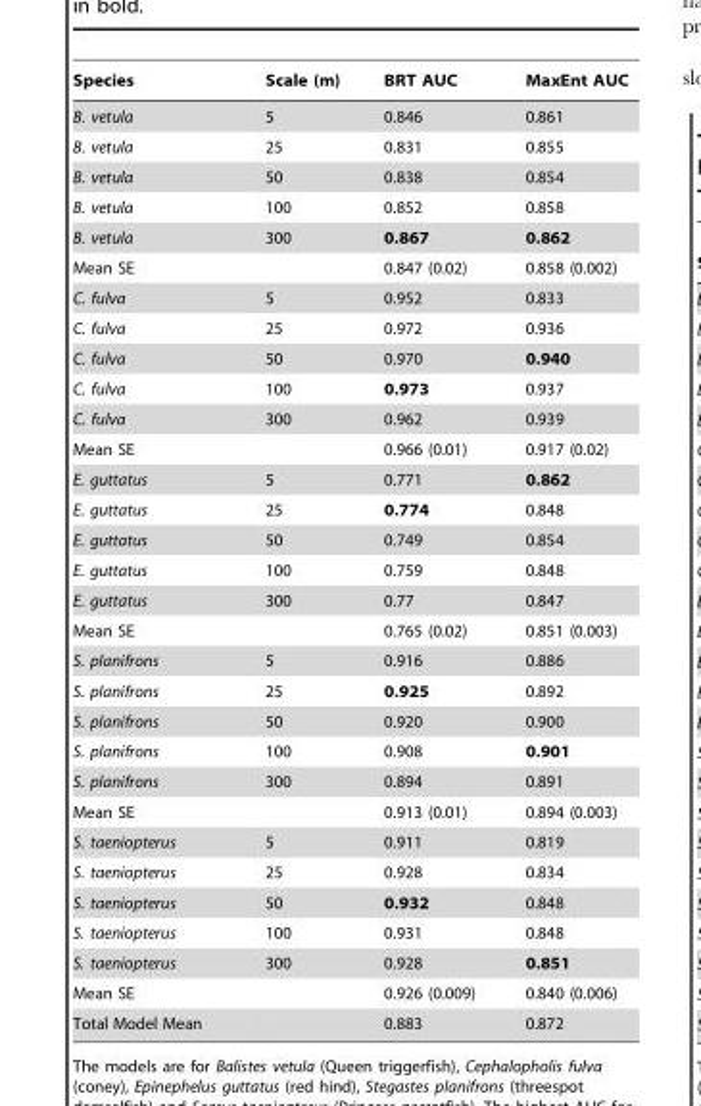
<table><thead><tr><td>Species</td><td>Scale (m)</td><td>BRT AUC</td><td>MaxEnt AUC</td></tr></thead><tbody><tr><td>B. vetula</td><td>5</td><td>0.846</td><td>0.861</td></tr><tr><td>B. vetula</td><td>25</td><td>0.831</td><td>0.855</td></tr><tr><td>B. vetula</td><td>50</td><td>0.838</td><td>0.854</td></tr><tr><td>B. vetula</td><td>100</td><td>0.852</td><td>0.858</td></tr><tr><td>B. vetula</td><td>300</td><td>0.867</td><td>0.862</td></tr><tr><td>Mean SE</td><td></td><td>0.847 (0.02)</td><td>0.858 (0.002)</td></tr><tr><td>C. fulva</td><td>5</td><td>0.952</td><td>0.833</td></tr><tr><td>C. fulva</td><td>25</td><td>0.972</td><td>0.936</td></tr><tr><td>C. fulva</td><td>50</td><td>0.970</td><td>0.940</td></tr><tr><td>C. fulva</td><td>100</td><td>0.973</td><td>0.937</td></tr><tr><td>C. fulva</td><td>300</td><td>0.962</td><td>0.939</td></tr><tr><td>Mean SE</td><td></td><td>0.966 (0.01)</td><td>0.917 (0.02)</td></tr><tr><td>E. guttatus</td><td>5</td><td>0.771</td><td>0.862</td></tr><tr><td>E. guttatus</td><td>25</td><td>0.774</td><td>0.848</td></tr><tr><td>E. guttatus</td><td>50</td><td>0.749</td><td>0.854</td></tr><tr><td>E. guttatus</td><td>100</td><td>0.759</td><td>0.848</td></tr><tr><td>E. guttatus</td><td>300</td><td>0.77</td><td>0.847</td></tr><tr><td>Mean SE</td><td></td><td>0.765 (0.02)</td><td>0.851 (0.003)</td></tr><tr><td>S. planifrons</td><td>5</td><td>0.916</td><td>0.886</td></tr><tr><td>S. planifrons</td><td>25</td><td>0.925</td><td>0.892</td></tr><tr><td>S. planifrons</td><td>50</td><td>0.920</td><td>0.900</td></tr><tr><td>S. planifrons</td><td>100</td><td>0.908</td><td>0.901</td></tr><tr><td>S. planifrons</td><td>300</td><td>0.894</td><td>0.891</td></tr><tr><td>Mean SE</td><td></td><td>0.913 (0.01)</td><td>0.894 (0.003)</td></tr><tr><td>S. taeniopterus</td><td>5</td><td>0.911</td><td>0.819</td></tr><tr><td>S. taeniopterus</td><td>25</td><td>0.928</td><td>0.834</td></tr><tr><td>S. taeniopterus</td><td>50</td><td>0.932</td><td>0.848</td></tr><tr><td>S. taeniopterus</td><td>100</td><td>0.931</td><td>0.848</td></tr><tr><td>S. taeniopterus</td><td>300</td><td>0.928</td><td>0.851</td></tr><tr><td>Mean SE</td><td></td><td>0.926 (0.009)</td><td>0.840 (0.006)</td></tr><tr><td>Total Model Mean</td><td></td><td>0.883</td><td>0.872</td></tr></tbody></table>